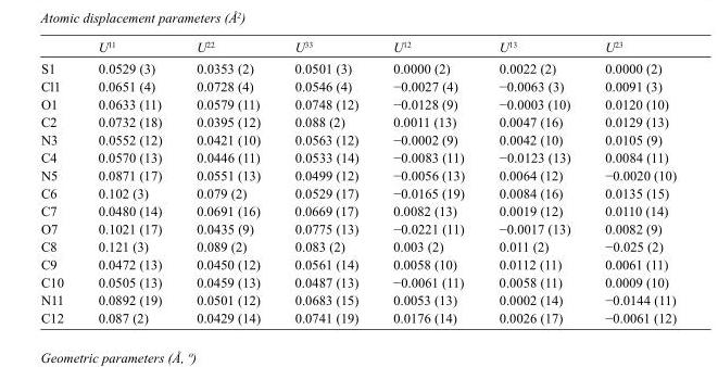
<table><thead><tr><td></td><td>U<sup>11</sup></td><td>U<sup>22</sup></td><td>U<sup>33</sup></td><td>U<sup>12</sup></td><td>U<sup>13</sup></td><td>U<sup>23</sup></td></tr></thead><tbody><tr><td>S1</td><td>0.0529 (3)</td><td>0.0353 (2)</td><td>0.0501 (3)</td><td>0.0000 (2)</td><td>0.0022 (2)</td><td>0.0000 (2)</td></tr><tr><td>Cl1</td><td>0.0651 (4)</td><td>0.0728 (4)</td><td>0.0546 (4)</td><td>−0.0027 (4)</td><td>−0.0063 (3)</td><td>0.0091 (3)</td></tr><tr><td>O1</td><td>0.0633 (11)</td><td>0.0579 (11)</td><td>0.0748 (12)</td><td>−0.0128 (9)</td><td>−0.0003 (10)</td><td>0.0120 (10)</td></tr><tr><td>C2</td><td>0.0732 (18)</td><td>0.0395 (12)</td><td>0.088 (2)</td><td>0.0011 (13)</td><td>0.0047 (16)</td><td>0.0129 (13)</td></tr><tr><td>N3</td><td>0.0552 (12)</td><td>0.0421 (10)</td><td>0.0563 (12)</td><td>−0.0002 (9)</td><td>0.0042 (10)</td><td>0.0105 (9)</td></tr><tr><td>C4</td><td>0.0570 (13)</td><td>0.0446 (11)</td><td>0.0533 (14)</td><td>−0.0083 (11)</td><td>−0.0123 (13)</td><td>0.0084 (11)</td></tr><tr><td>N5</td><td>0.0871 (17)</td><td>0.0551 (13)</td><td>0.0499 (12)</td><td>−0.0056 (13)</td><td>0.0064 (12)</td><td>−0.0020 (10)</td></tr><tr><td>C6</td><td>0.102 (3)</td><td>0.079 (2)</td><td>0.0529 (17)</td><td>−0.0165 (19)</td><td>0.0084 (16)</td><td>0.0135 (15)</td></tr><tr><td>C7</td><td>0.0480 (14)</td><td>0.0691 (16)</td><td>0.0669 (17)</td><td>0.0082 (13)</td><td>0.0019 (12)</td><td>0.0110 (14)</td></tr><tr><td>O7</td><td>0.1021 (17)</td><td>0.0435 (9)</td><td>0.0775 (13)</td><td>−0.0221 (11)</td><td>−0.0017 (13)</td><td>0.0082 (9)</td></tr><tr><td>C8</td><td>0.121 (3)</td><td>0.089 (2)</td><td>0.083 (2)</td><td>0.003 (2)</td><td>0.011 (2)</td><td>−0.025 (2)</td></tr><tr><td>C9</td><td>0.0472 (13)</td><td>0.0450 (12)</td><td>0.0561 (14)</td><td>0.0058 (10)</td><td>0.0112 (11)</td><td>0.0061 (11)</td></tr><tr><td>C10</td><td>0.0505 (13)</td><td>0.0459 (13)</td><td>0.0487 (13)</td><td>−0.0061 (11)</td><td>0.0058 (11)</td><td>0.0009 (10)</td></tr><tr><td>N11</td><td>0.0892 (19)</td><td>0.0501 (12)</td><td>0.0683 (15)</td><td>0.0053 (13)</td><td>0.0002 (14)</td><td>−0.0144 (11)</td></tr><tr><td>C12</td><td>0.087 (2)</td><td>0.0429 (14)</td><td>0.0741 (19)</td><td>0.0176 (14)</td><td>0.0026 (17)</td><td>−0.0061 (12)</td></tr></tbody></table>